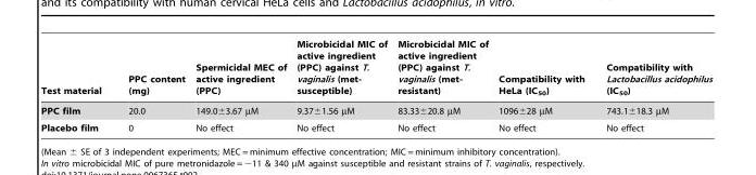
<table><thead><tr><td>Test material</td><td>PPC content (mg)</td><td>Spermicidal MEC of active ingredient (PPC)</td><td>Microbicidal MIC of active ingredient (PPC) against T. vaginalis (met- susceptible)</td><td>Microbicidal MIC of active ingredient (PPC) against T. vaginalis (met- resistant)</td><td>Compatibility with HeLa (IC<sub>50</sub>)</td><td>Compatibility with Lactobacillus acidophilus (IC<sub>50</sub>)</td></tr></thead><tbody><tr><td>PPC film</td><td>20.0</td><td>149.0±3.67 µM</td><td>9.37±1.56 µM</td><td>83.33±20.8 µM</td><td>1096±28 µM</td><td>743.1±18.3 µM</td></tr><tr><td>Placebo film</td><td>0</td><td>No effect</td><td>No effect</td><td>No effect</td><td>No effect</td><td>No effect</td></tr></tbody></table>